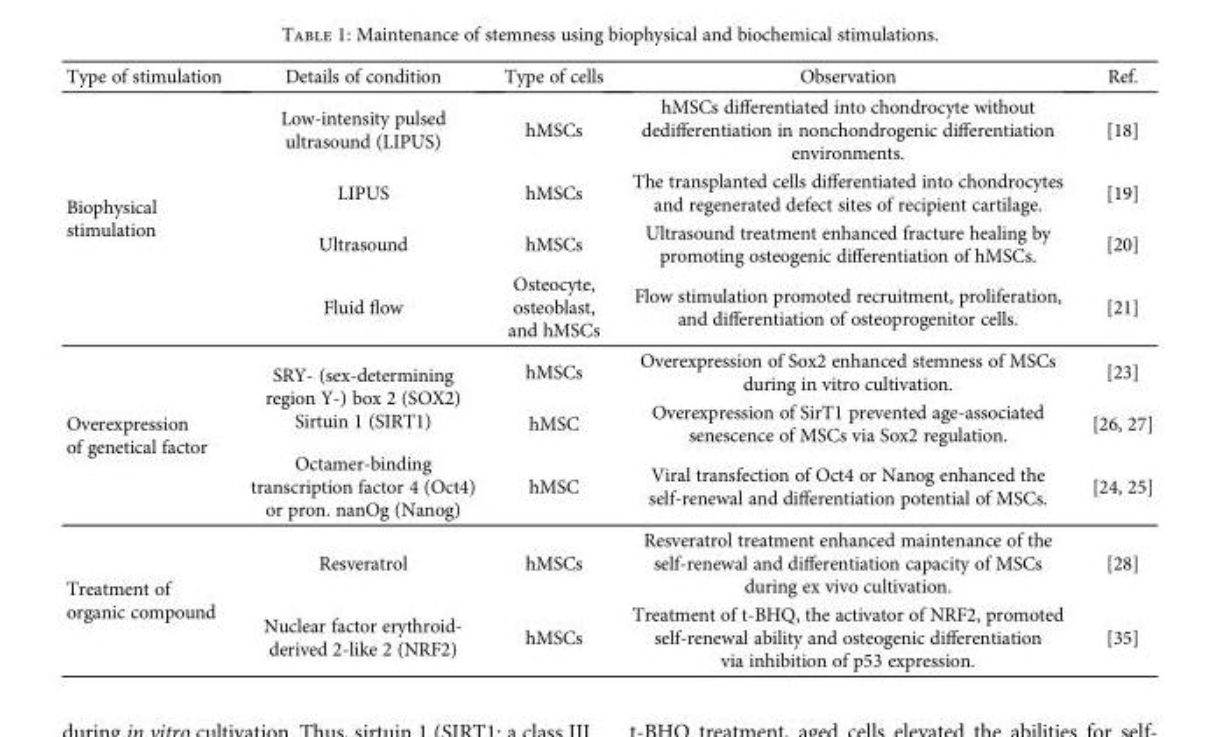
<table><thead><tr><td>Type of stimulation</td><td>Details of condition</td><td>Type of cells</td><td>Observation</td><td>Ref.</td></tr></thead><tbody><tr><td rowspan="4">Biophysical stimulation</td><td>Low-intensity pulsed ultrasound (LIPUS)</td><td>hMSCs</td><td>hMSCs differentiated into chondrocyte without dedifferentiation in nonchondrogenic differentiation environments.</td><td>[18]</td></tr><tr><td>LIPUS</td><td>hMSCs</td><td>The transplanted cells differentiated into chondrocytes and regenerated defect sites of recipient cartilage.</td><td>[19]</td></tr><tr><td>Ultrasound</td><td>hMSCs</td><td>Ultrasound treatment enhanced fracture healing by promoting osteogenic differentiation of hMSCs.</td><td>[20]</td></tr><tr><td>Fluid flow</td><td>Osteocyte, osteoblast, and hMSCs</td><td>Flow stimulation promoted recruitment, proliferation, and differentiation of osteoprogenitor cells.</td><td>[21]</td></tr><tr><td rowspan="3">Overexpression of genetical factor</td><td rowspan="2">SRY- (sex-determining region Y-) box 2 (SOX2) Sirtuin 1 (SIRT1)</td><td>hMSCs</td><td>Overexpression of Sox2 enhanced stemness of MSCs during in vitro cultivation.</td><td>[23]</td></tr><tr><td>hMSC</td><td>Overexpression of SirT1 prevented age-associated senescence of MSCs via Sox2 regulation.</td><td>[26, 27]</td></tr><tr><td>Octamer-binding transcription factor 4 (Oct4) or pron. nanOg (Nanog)</td><td>hMSC</td><td>Viral transfection of Oct4 or Nanog enhanced the self-renewal and differentiation potential of MSCs.</td><td>[24, 25]</td></tr><tr><td rowspan="2">Treatment of organic compound</td><td>Resveratrol</td><td>hMSCs</td><td>Resveratrol treatment enhanced maintenance of the self-renewal and differentiation capacity of MSCs during ex vivo cultivation.</td><td>[28]</td></tr><tr><td>Nuclear factor erythroid- derived 2-like 2 (NRF2)</td><td>hMSCs</td><td>Treatment of t-BHQ, the activator of NRF2, promoted self-renewal ability and osteogenic differentiation via inhibition of p53 expression.</td><td>[35]</td></tr></tbody></table>